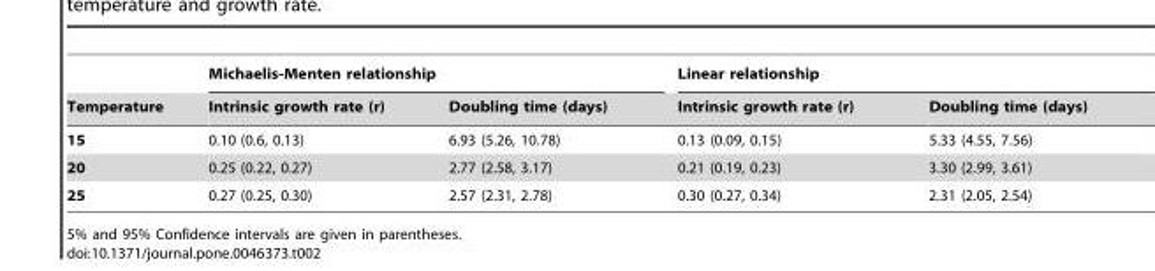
<table><thead><tr><td rowspan="2">Temperature</td><td colspan="2">Michaelis-Menten relationship</td><td colspan="2">Linear relationship</td></tr><tr><td>Intrinsic growth rate (r)</td><td>Doubling time (days)</td><td>Intrinsic growth rate (r)</td><td>Doubling time (days)</td></tr></thead><tbody><tr><td>15</td><td>0.10 (0.6, 0.13)</td><td>6.93 (5.26, 10.78)</td><td>0.13 (0.09, 0.15)</td><td>5.33 (4.55, 7.56)</td></tr><tr><td>20</td><td>0.25 (0.22, 0.27)</td><td>2.77 (2.58, 3.17)</td><td>0.21 (0.19, 0.23)</td><td>3.30 (2.99, 3.61)</td></tr><tr><td>25</td><td>0.27 (0.25, 0.30)</td><td>2.57 (2.31, 2.78)</td><td>0.30 (0.27, 0.34)</td><td>2.31 (2.05, 2.54)</td></tr></tbody></table>